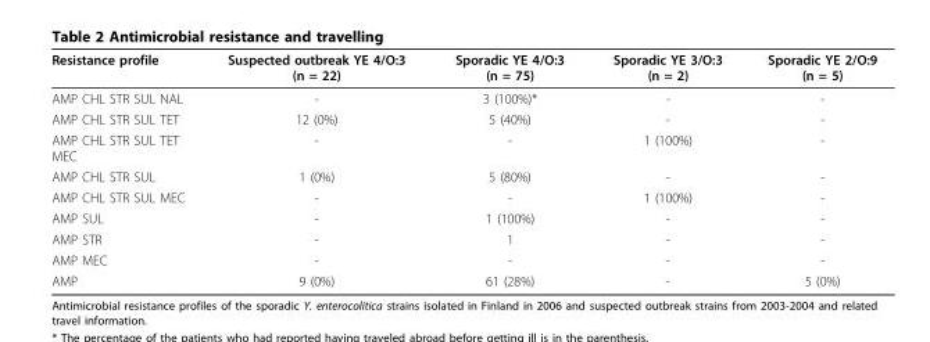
<table><thead><tr><td>Resistance profile</td><td>Suspected outbreak YE 4/O:3 (n = 22)</td><td>Sporadic YE 4/O:3 (n = 75)</td><td>Sporadic YE 3/O:3 (n = 2)</td><td>Sporadic YE 2/O:9 (n = 5)</td></tr></thead><tbody><tr><td>AMP CHL STR SUL NAL</td><td>-</td><td>3 (100%)*</td><td>-</td><td>-</td></tr><tr><td>AMP CHL STR SUL TET</td><td>12 (0%)</td><td>5 (40%)</td><td>-</td><td>-</td></tr><tr><td>AMP CHL STR SUL TET MEC</td><td>-</td><td>-</td><td>1 (100%)</td><td>-</td></tr><tr><td>AMP CHL STR SUL</td><td>1 (0%)</td><td>5 (80%)</td><td>-</td><td>-</td></tr><tr><td>AMP CHL STR SUL MEC</td><td>-</td><td>-</td><td>1 (100%)</td><td>-</td></tr><tr><td>AMP SUL</td><td>-</td><td>1 (100%)</td><td>-</td><td>-</td></tr><tr><td>AMP STR</td><td>-</td><td>1</td><td>-</td><td>-</td></tr><tr><td>AMP MEC</td><td>-</td><td>-</td><td>-</td><td>-</td></tr><tr><td>AMP</td><td>9 (0%)</td><td>61 (28%)</td><td>-</td><td>5 (0%)</td></tr></tbody></table>